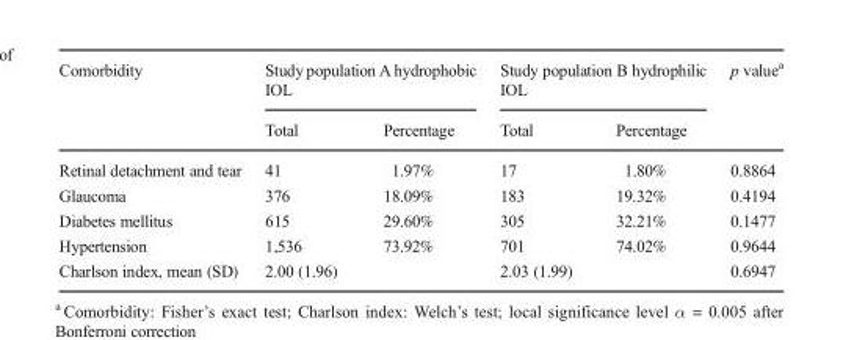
<table><thead><tr><td rowspan="2">Comorbidity</td><td colspan="2">Study population A hydrophobic IOL</td><td colspan="2">Study population B hydrophilic IOL</td><td rowspan="2">p value<sup>a</sup></td></tr><tr><td>Total</td><td>Percentage</td><td>Total</td><td>Percentage</td></tr></thead><tbody><tr><td>Retinal detachment and tear</td><td>41</td><td>1.97%</td><td>17</td><td>1.80%</td><td>0.8864</td></tr><tr><td>Glaucoma</td><td>376</td><td>18.09%</td><td>183</td><td>19.32%</td><td>0.4194</td></tr><tr><td>Diabetes mellitus</td><td>615</td><td>29.60%</td><td>305</td><td>32.21%</td><td>0.1477</td></tr><tr><td>Hypertension</td><td>1,536</td><td>73.92%</td><td>701</td><td>74.02%</td><td>0.9644</td></tr><tr><td>Charlson index, mean (SD)</td><td>2.00 (1.96)</td><td></td><td>2.03 (1.99)</td><td></td><td>0.6947</td></tr></tbody></table>